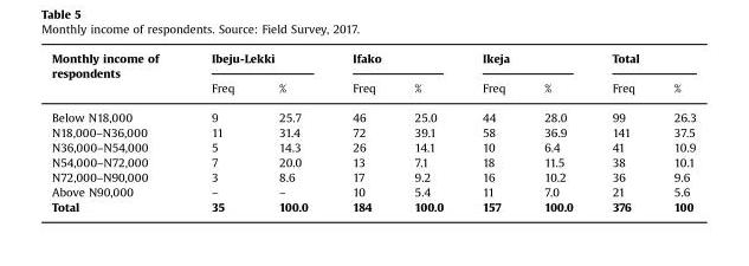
<table><thead><tr><td rowspan="2">Monthly income of respondents</td><td colspan="2">Ibeju-Lekki</td><td colspan="2">Ifako</td><td colspan="2">Ikeja</td><td colspan="2">Total</td></tr><tr><td>Freq</td><td>%</td><td>Freq</td><td>%</td><td>Freq</td><td>%</td><td>Freq</td><td>%</td></tr></thead><tbody><tr><td>Below N18,000</td><td>9</td><td>25.7</td><td>46</td><td>25.0</td><td>44</td><td>28.0</td><td>99</td><td>26.3</td></tr><tr><td>N18,000–N36,000</td><td>11</td><td>31.4</td><td>72</td><td>39.1</td><td>58</td><td>36.9</td><td>141</td><td>37.5</td></tr><tr><td>N36,000–N54,000</td><td>5</td><td>14.3</td><td>26</td><td>14.1</td><td>10</td><td>6.4</td><td>41</td><td>10.9</td></tr><tr><td>N54,000–N72,000</td><td>7</td><td>20.0</td><td>13</td><td>7.1</td><td>18</td><td>11.5</td><td>38</td><td>10.1</td></tr><tr><td>N72,000–N90,000</td><td>3</td><td>8.6</td><td>17</td><td>9.2</td><td>16</td><td>10.2</td><td>36</td><td>9.6</td></tr><tr><td>Above N90,000</td><td>–</td><td>–</td><td>10</td><td>5.4</td><td>11</td><td>7.0</td><td>21</td><td>5.6</td></tr><tr><td>Total</td><td>35</td><td>100.0</td><td>184</td><td>100.0</td><td>157</td><td>100.0</td><td>376</td><td>100</td></tr></tbody></table>